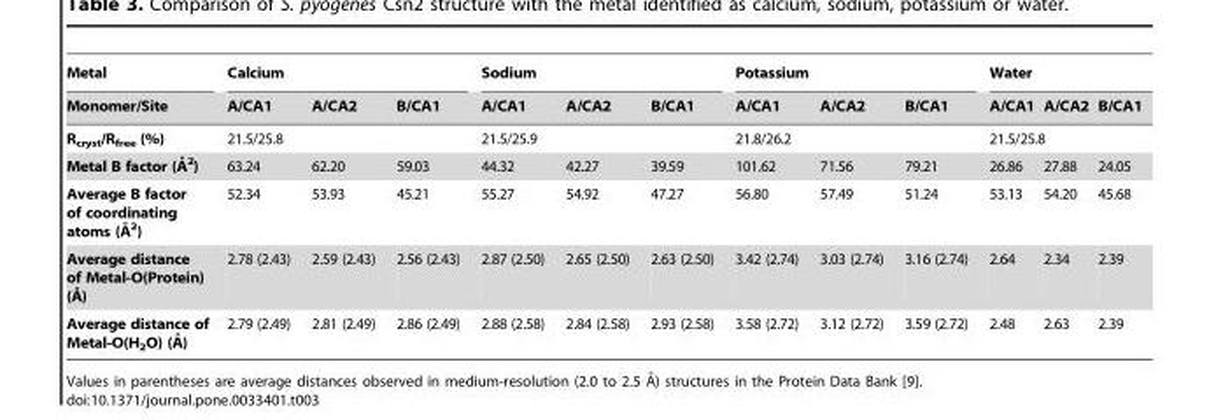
<table><thead><tr><td rowspan="2">Metal Monomer/Site</td><td colspan="3">Calcium</td><td colspan="3">Sodium</td><td colspan="3">Potassium</td><td colspan="3">Water</td></tr><tr><td>A/CA1</td><td>A/CA2</td><td>B/CA1</td><td>A/CA1</td><td>A/CA2</td><td>B/CA1</td><td>A/CA1</td><td>A/CA2</td><td>B/CA1</td><td>A/CA1</td><td>A/CA2</td><td>B/CA1</td></tr></thead><tbody><tr><td>R<sub>cryst</sub>/R<sub>free</sub> (%)</td><td colspan="3">21.5/25.8</td><td colspan="3">21.5/25.9</td><td colspan="3">21.8/26.2</td><td colspan="3">21.5/25.8</td></tr><tr><td>Metal B factor (A˚ 2)</td><td>63.24</td><td>62.20</td><td>59.03</td><td>44.32</td><td>42.27</td><td>39.59</td><td>101.62</td><td>71.56</td><td>79.21</td><td>26.86</td><td>27.88</td><td>24.05</td></tr><tr><td>Average B factor of coordinating atoms (A˚ 2)</td><td>52.34</td><td>53.93</td><td>45.21</td><td>55.27</td><td>54.92</td><td>47.27</td><td>56.80</td><td>57.49</td><td>51.24</td><td>53.13</td><td>54.20</td><td>45.68</td></tr><tr><td>Average distance of Metal-O(Protein) (A˚)</td><td>2.78 (2.43)</td><td>2.59 (2.43)</td><td>2.56 (2.43)</td><td>2.87 (2.50)</td><td>2.65 (2.50)</td><td>2.63 (2.50)</td><td>3.42 (2.74)</td><td>3.03 (2.74)</td><td>3.16 (2.74)</td><td>2.64</td><td>2.34</td><td>2.39</td></tr><tr><td>Average distance of Metal-O(H2O) (A˚)</td><td>2.79 (2.49)</td><td>2.81 (2.49)</td><td>2.86 (2.49)</td><td>2.88 (2.58)</td><td>2.84 (2.58)</td><td>2.93 (2.58)</td><td>3.58 (2.72)</td><td>3.12 (2.72)</td><td>3.59 (2.72)</td><td>2.48</td><td>2.63</td><td>2.39</td></tr></tbody></table>